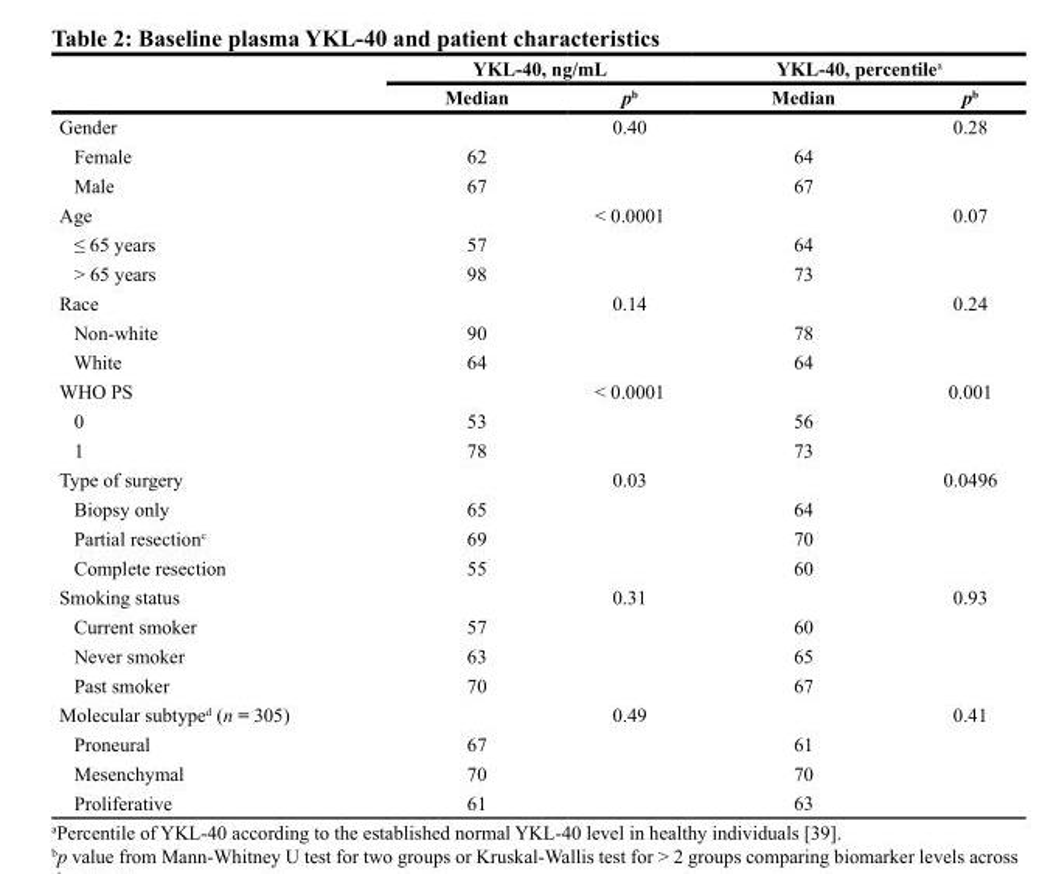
<table><thead><tr><td rowspan="2"></td><td colspan="2">YKL-40, ng/mL</td><td colspan="2">YKL-40, percentile<sup>a</sup></td></tr><tr><td>Median</td><td>p<sup>b</sup></td><td>Median</td><td>p<sup>b</sup></td></tr></thead><tbody><tr><td>Gender</td><td></td><td>0.40</td><td></td><td>0.28</td></tr><tr><td>Female</td><td>62</td><td></td><td>64</td><td></td></tr><tr><td>Male</td><td>67</td><td></td><td>67</td><td></td></tr><tr><td>Age</td><td></td><td>&lt; 0.0001</td><td></td><td>0.07</td></tr><tr><td>≤ 65 years</td><td>57</td><td></td><td>64</td><td></td></tr><tr><td>&gt; 65 years</td><td>98</td><td></td><td>73</td><td></td></tr><tr><td>Race</td><td></td><td>0.14</td><td></td><td>0.24</td></tr><tr><td>Non-white</td><td>90</td><td></td><td>78</td><td></td></tr><tr><td>White</td><td>64</td><td></td><td>64</td><td></td></tr><tr><td>WHO PS</td><td></td><td>&lt; 0.0001</td><td></td><td>0.001</td></tr><tr><td>0</td><td>53</td><td></td><td>56</td><td></td></tr><tr><td>1</td><td>78</td><td></td><td>73</td><td></td></tr><tr><td>Type of surgery</td><td></td><td>0.03</td><td></td><td>0.0496</td></tr><tr><td>Biopsy only</td><td>65</td><td></td><td>64</td><td></td></tr><tr><td>Partial resection<sup>c</sup></td><td>69</td><td></td><td>70</td><td></td></tr><tr><td>Complete resection</td><td>55</td><td></td><td>60</td><td></td></tr><tr><td>Smoking status</td><td></td><td>0.31</td><td></td><td>0.93</td></tr><tr><td>Current smoker</td><td>57</td><td></td><td>60</td><td></td></tr><tr><td>Never smoker</td><td>63</td><td></td><td>65</td><td></td></tr><tr><td>Past smoker</td><td>70</td><td></td><td>67</td><td></td></tr><tr><td>Molecular subtype<sup>d</sup> (n = 305)</td><td></td><td>0.49</td><td></td><td>0.41</td></tr><tr><td>Proneural</td><td>67</td><td></td><td>61</td><td></td></tr><tr><td>Mesenchymal</td><td>70</td><td></td><td>70</td><td></td></tr><tr><td>Proliferative</td><td>61</td><td></td><td>63</td><td></td></tr></tbody></table>